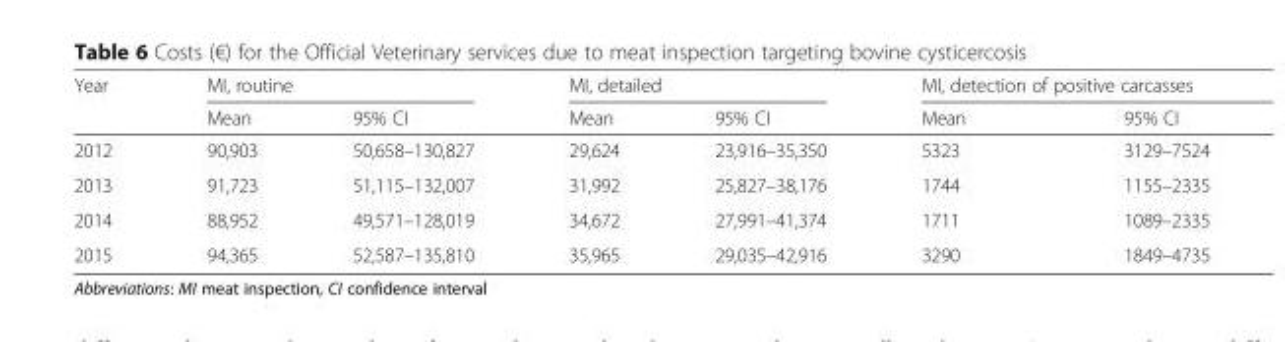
<table><thead><tr><td rowspan="2">Year</td><td colspan="2">MI, routine</td><td colspan="2">MI, detailed</td><td colspan="2">MI, detection of positive carcasses</td></tr><tr><td>Mean</td><td>95% CI</td><td>Mean</td><td>95% CI</td><td>Mean</td><td>95% CI</td></tr></thead><tbody><tr><td>2012</td><td>90,903</td><td>50,658–130,827</td><td>29,624</td><td>23,916–35,350</td><td>5323</td><td>3129–7524</td></tr><tr><td>2013</td><td>91,723</td><td>51,115–132,007</td><td>31,992</td><td>25,827–38,176</td><td>1744</td><td>1155–2335</td></tr><tr><td>2014</td><td>88,952</td><td>49,571–128,019</td><td>34,672</td><td>27,991–41,374</td><td>1711</td><td>1089–2335</td></tr><tr><td>2015</td><td>94,365</td><td>52,587–135,810</td><td>35,965</td><td>29,035–42,916</td><td>3290</td><td>1849–4735</td></tr></tbody></table>